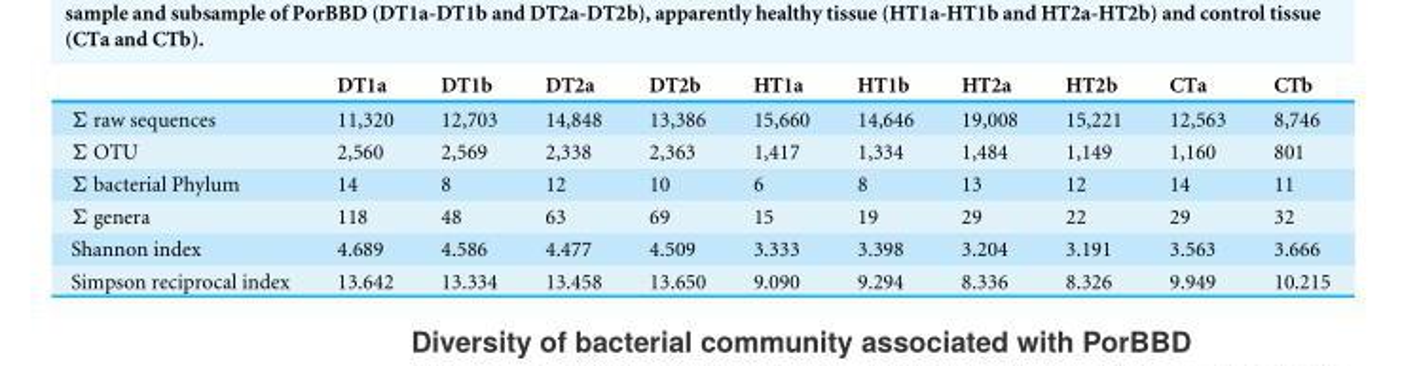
<table><thead><tr><td></td><td>DT1a</td><td>DT1b</td><td>DT2a</td><td>DT2b</td><td>HT1a</td><td>HT1b</td><td>HT2a</td><td>HT2b</td><td>CTa</td><td>CTb</td></tr></thead><tbody><tr><td>Σ raw sequences</td><td>11,320</td><td>12,703</td><td>14,848</td><td>13,386</td><td>15,660</td><td>14,646</td><td>19,008</td><td>15,221</td><td>12,563</td><td>8,746</td></tr><tr><td>Σ OTU</td><td>2,560</td><td>2,569</td><td>2,338</td><td>2,363</td><td>1,417</td><td>1,334</td><td>1,484</td><td>1,149</td><td>1,160</td><td>801</td></tr><tr><td>Σ bacterial Phylum</td><td>14</td><td>8</td><td>12</td><td>10</td><td>6</td><td>8</td><td>13</td><td>12</td><td>14</td><td>11</td></tr><tr><td>Σ genera</td><td>118</td><td>48</td><td>63</td><td>69</td><td>15</td><td>19</td><td>29</td><td>22</td><td>29</td><td>32</td></tr><tr><td>Shannon index</td><td>4.689</td><td>4.586</td><td>4.477</td><td>4.509</td><td>3.333</td><td>3.398</td><td>3.204</td><td>3.191</td><td>3.563</td><td>3.666</td></tr><tr><td>Simpson reciprocal index</td><td>13.642</td><td>13.334</td><td>13.458</td><td>13.650</td><td>9.090</td><td>9.294</td><td>8.336</td><td>8.326</td><td>9.949</td><td>10.215</td></tr></tbody></table>